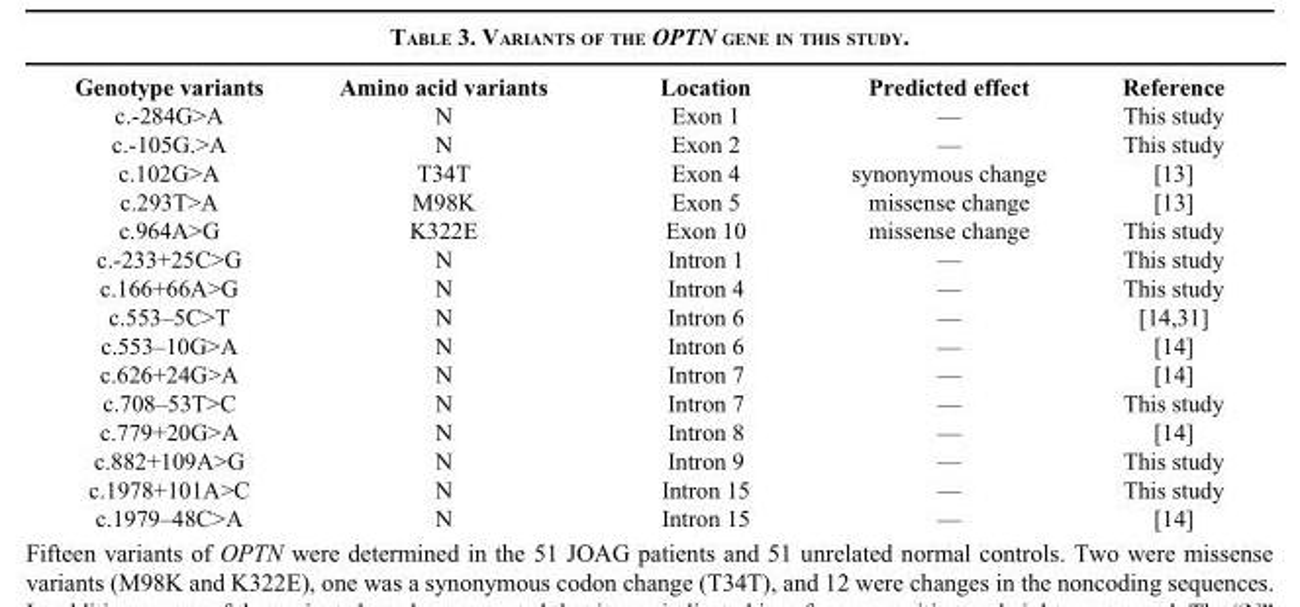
<table><tbody><tr><td>Genotype variants</td><td>Amino acid variants</td><td>Location</td><td>Predicted effect</td><td>Reference</td></tr><tr><td>c.-284G&gt;A</td><td>N</td><td>Exon 1</td><td>—</td><td>This study</td></tr><tr><td>c.-105G.&gt;A</td><td>N</td><td>Exon 2</td><td>—</td><td>This study</td></tr><tr><td>c.102G&gt;A</td><td>T34T</td><td>Exon 4</td><td>synonymous change</td><td>[13]</td></tr><tr><td>c.293T&gt;A</td><td>M98K</td><td>Exon 5</td><td>missense change</td><td>[13]</td></tr><tr><td>c.964A&gt;G</td><td>K322E</td><td>Exon 10</td><td>missense change</td><td>This study</td></tr><tr><td>c.-233+25C&gt;G</td><td>N</td><td>Intron 1</td><td>—</td><td>This study</td></tr><tr><td>c.166+66A&gt;G</td><td>N</td><td>Intron 4</td><td>—</td><td>This study</td></tr><tr><td>c.553–5C&gt;T</td><td>N</td><td>Intron 6</td><td>—</td><td>[14,31]</td></tr><tr><td>c.553–10G&gt;A</td><td>N</td><td>Intron 6</td><td>—</td><td>[14]</td></tr><tr><td>c.626+24G&gt;A</td><td>N</td><td>Intron 7</td><td>—</td><td>[14]</td></tr><tr><td>c.708–53T&gt;C</td><td>N</td><td>Intron 7</td><td>—</td><td>This study</td></tr><tr><td>c.779+20G&gt;A</td><td>N</td><td>Intron 8</td><td>—</td><td>[14]</td></tr><tr><td>c.882+109A&gt;G</td><td>N</td><td>Intron 9</td><td>—</td><td>This study</td></tr><tr><td>c.1978+101A&gt;C</td><td>N</td><td>Intron 15</td><td>—</td><td>This study</td></tr><tr><td>c.1979–48C&gt;A</td><td>N</td><td>Intron 15</td><td>—</td><td>[14]</td></tr></tbody></table>